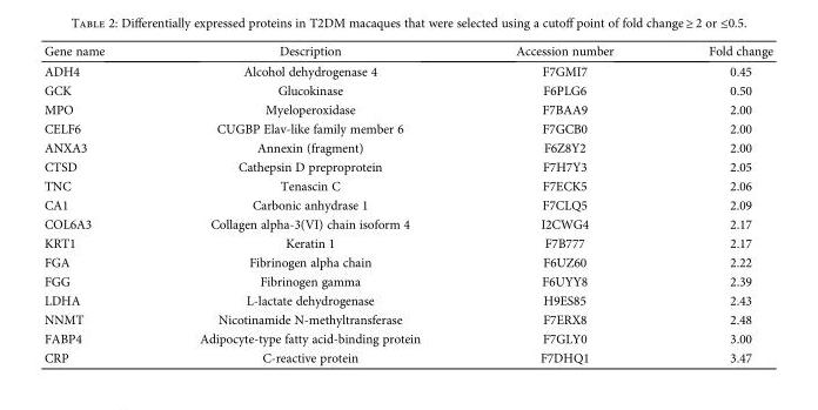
<table><thead><tr><td>Gene name</td><td>Description</td><td>Accession number</td><td>Fold change</td></tr></thead><tbody><tr><td>ADH4</td><td>Alcohol dehydrogenase 4</td><td>F7GMI7</td><td>0.45</td></tr><tr><td>GCK</td><td>Glucokinase</td><td>F6PLG6</td><td>0.50</td></tr><tr><td>MPO</td><td>Myeloperoxidase</td><td>F7BAA9</td><td>2.00</td></tr><tr><td>CELF6</td><td>CUGBP Elav-like family member 6</td><td>F7GCB0</td><td>2.00</td></tr><tr><td>ANXA3</td><td>Annexin (fragment)</td><td>F6Z8Y2</td><td>2.00</td></tr><tr><td>CTSD</td><td>Cathepsin D preproprotein</td><td>F7H7Y3</td><td>2.05</td></tr><tr><td>TNC</td><td>Tenascin C</td><td>F7ECK5</td><td>2.06</td></tr><tr><td>CA1</td><td>Carbonic anhydrase 1</td><td>F7CLQ5</td><td>2.09</td></tr><tr><td>COL6A3</td><td>Collagen alpha-3(VI) chain isoform 4</td><td>I2CWG4</td><td>2.17</td></tr><tr><td>KRT1</td><td>Keratin 1</td><td>F7B777</td><td>2.17</td></tr><tr><td>FGA</td><td>Fibrinogen alpha chain</td><td>F6UZ60</td><td>2.22</td></tr><tr><td>FGG</td><td>Fibrinogen gamma</td><td>F6UYY8</td><td>2.39</td></tr><tr><td>LDHA</td><td>L-lactate dehydrogenase</td><td>H9ES85</td><td>2.43</td></tr><tr><td>NNMT</td><td>Nicotinamide N-methyltransferase</td><td>F7ERX8</td><td>2.48</td></tr><tr><td>FABP4</td><td>Adipocyte-type fatty acid-binding protein</td><td>F7GLY0</td><td>3.00</td></tr><tr><td>CRP</td><td>C-reactive protein</td><td>F7DHQ1</td><td>3.47</td></tr></tbody></table>